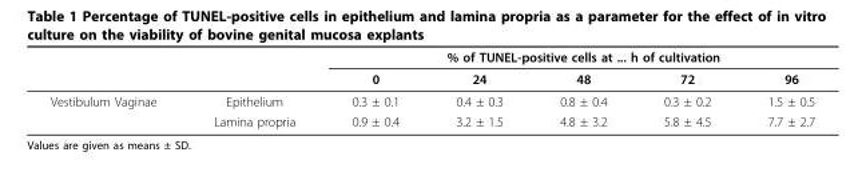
<table><thead><tr><td rowspan="2"></td><td rowspan="2"></td><td colspan="5">% of TUNEL-positive cells at ... h of cultivation</td></tr><tr><td>0</td><td>24</td><td>48</td><td>72</td><td>96</td></tr></thead><tbody><tr><td rowspan="2">Vestibulum Vaginae</td><td>Epithelium</td><td>0.3 ± 0.1</td><td>0.4 ± 0.3</td><td>0.8 ± 0.4</td><td>0.3 ± 0.2</td><td>1.5 ± 0.5</td></tr><tr><td>Lamina propria</td><td>0.9 ± 0.4</td><td>3.2 ± 1.5</td><td>4.8 ± 3.2</td><td>5.8 ± 4.5</td><td>7.7 ± 2.7</td></tr></tbody></table>